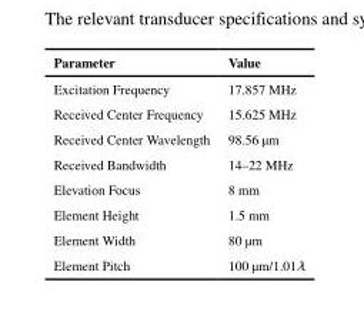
<table><thead><tr><td>Parameter</td><td>Value</td></tr></thead><tbody><tr><td>Excitation Frequency</td><td>17.857 MHz</td></tr><tr><td>Received Center Frequency</td><td>15.625 MHz</td></tr><tr><td>Received Center Wavelength</td><td>98.56 μm</td></tr><tr><td>Received Bandwidth</td><td>14–22 MHz</td></tr><tr><td>Elevation Focus</td><td>8 mm</td></tr><tr><td>Element Height</td><td>1.5 mm</td></tr><tr><td>Element Width</td><td>80 μm</td></tr><tr><td>Element Pitch</td><td>100 μm/1.01λ</td></tr></tbody></table>